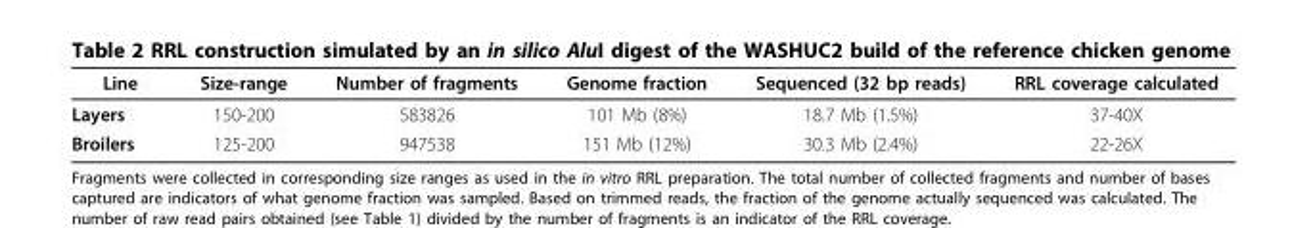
<table><thead><tr><td>Line</td><td>Size-range</td><td>Number of fragments</td><td>Genome fraction</td><td>Sequenced (32 bp reads)</td><td>RRL coverage calculated</td></tr></thead><tbody><tr><td>Layers</td><td>150-200</td><td>583826</td><td>101 Mb (8%)</td><td>18.7 Mb (1.5%)</td><td>37-40X</td></tr><tr><td>Broilers</td><td>125-200</td><td>947538</td><td>151 Mb (12%)</td><td>30.3 Mb (2.4%)</td><td>22-26X</td></tr></tbody></table>